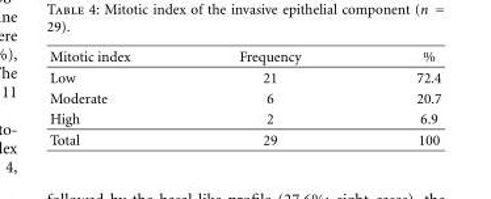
<table><thead><tr><td>Mitotic index</td><td>Frequency</td><td>%</td></tr></thead><tbody><tr><td>Low</td><td>21</td><td>72.4</td></tr><tr><td>Moderate</td><td>6</td><td>20.7</td></tr><tr><td>High</td><td>2</td><td>6.9</td></tr><tr><td>Total</td><td>29</td><td>100</td></tr></tbody></table>